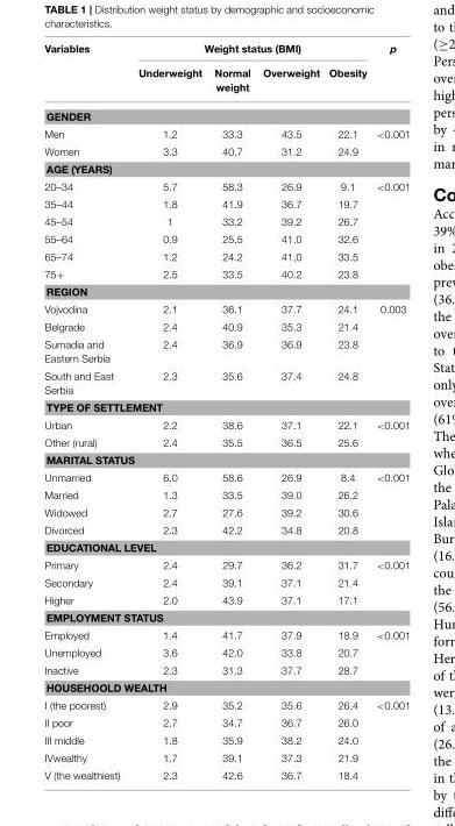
<table><thead><tr><td rowspan="2">Variables</td><td colspan="4">Weight status (BMI)</td><td rowspan="2">p</td></tr><tr><td>Underweight</td><td>Normal weight</td><td>Overweight</td><td>Obesity</td></tr></thead><tbody><tr><td colspan="6">GENDER</td></tr><tr><td>Men</td><td>1.2</td><td>33.3</td><td>43.5</td><td>22.1</td><td>&lt;0.001</td></tr><tr><td>Women</td><td>3.3</td><td>40.7</td><td>31.2</td><td>24.9</td><td></td></tr><tr><td colspan="6">AGE (YEARS)</td></tr><tr><td>20–34</td><td>5.7</td><td>58.3</td><td>26.9</td><td>9.1</td><td>&lt;0.001</td></tr><tr><td>35–44</td><td>1.8</td><td>41.9</td><td>36.7</td><td>19.7</td><td></td></tr><tr><td>45–54</td><td>1</td><td>33.2</td><td>39.2</td><td>26.7</td><td></td></tr><tr><td>55–64</td><td>0.9</td><td>25.5</td><td>41.0</td><td>32.6</td><td></td></tr><tr><td>65–74</td><td>1.2</td><td>24.2</td><td>41,0</td><td>33.5</td><td></td></tr><tr><td>75+</td><td>2.5</td><td>33.5</td><td>40.2</td><td>23.8</td><td></td></tr><tr><td colspan="6">REGION</td></tr><tr><td>Vojvodina</td><td>2.1</td><td>36.1</td><td>37.7</td><td>24.1</td><td>0.003</td></tr><tr><td>Belgrade</td><td>2.4</td><td>40.9</td><td>35.3</td><td>21.4</td><td></td></tr><tr><td>Sumadia and Eastern Serbia</td><td>2.4</td><td>36.9</td><td>36.9</td><td>23.8</td><td></td></tr><tr><td>South and East Serbia</td><td>2.3</td><td>35.6</td><td>37.4</td><td>24.8</td><td></td></tr><tr><td colspan="6">TYPE OF SETTLEMENT</td></tr><tr><td>Urban</td><td>2.2</td><td>38.6</td><td>37.1</td><td>22.1</td><td>&lt;0.001</td></tr><tr><td>Other (rural)</td><td>2.4</td><td>35.5</td><td>36.5</td><td>25.6</td><td></td></tr><tr><td colspan="6">MARITAL STATUS</td></tr><tr><td>Unmarried</td><td>6.0</td><td>58.6</td><td>26.9</td><td>8.4</td><td>&lt;0.001</td></tr><tr><td>Married</td><td>1.3</td><td>33.5</td><td>39.0</td><td>26.2</td><td></td></tr><tr><td>Widowed</td><td>2.7</td><td>27.6</td><td>39.2</td><td>30.6</td><td></td></tr><tr><td>Divorced</td><td>2.3</td><td>42.2</td><td>34.8</td><td>20.8</td><td></td></tr><tr><td colspan="6">EDUCATIONAL LEVEL</td></tr><tr><td>Primary</td><td>2.4</td><td>29.7</td><td>36.2</td><td>31.7</td><td>&lt;0.001</td></tr><tr><td>Secondary</td><td>2.4</td><td>39.1</td><td>37.1</td><td>21.4</td><td></td></tr><tr><td>Higher</td><td>2.0</td><td>43.9</td><td>37.1</td><td>17.1</td><td></td></tr><tr><td colspan="6">EMPLOYMENT STATUS</td></tr><tr><td>Employed</td><td>1.4</td><td>41.7</td><td>37.9</td><td>18.9</td><td>&lt;0.001</td></tr><tr><td>Unemployed</td><td>3.6</td><td>42.0</td><td>33.8</td><td>20.7</td><td></td></tr><tr><td>Inactive</td><td>2.3</td><td>31.3</td><td>37.7</td><td>28.7</td><td></td></tr><tr><td colspan="6">HOUSEHOOLD WEALTH</td></tr><tr><td>I (the poorest)</td><td>2.9</td><td>35.2</td><td>35.6</td><td>26.4</td><td>&lt;0.001</td></tr><tr><td>II poor</td><td>2.7</td><td>34.7</td><td>36.7</td><td>26.0</td><td></td></tr><tr><td>III middle</td><td>1.8</td><td>35.9</td><td>38.2</td><td>24.0</td><td></td></tr><tr><td>IVwealthy</td><td>1.7</td><td>39.1</td><td>37.3</td><td>21.9</td><td></td></tr><tr><td>V (the wealthiest)</td><td>2.3</td><td>42.6</td><td>36.7</td><td>18.4</td><td></td></tr></tbody></table>